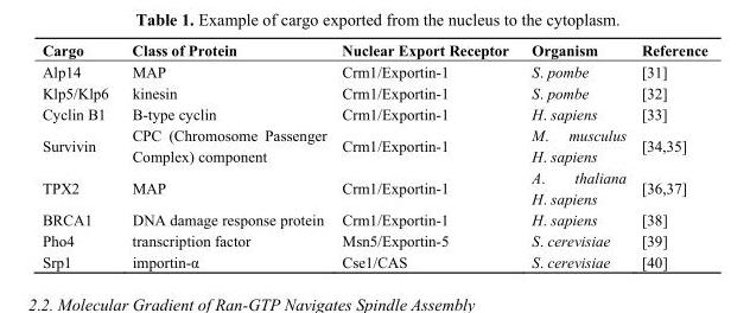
<table><thead><tr><td>Cargo</td><td>Class of Protein</td><td>Nuclear Export Receptor</td><td>Organism</td><td>Reference</td></tr></thead><tbody><tr><td>Alp14</td><td>MAP</td><td>Crm1/Exportin-1</td><td>S. pombe</td><td>[31]</td></tr><tr><td>Klp5/Klp6</td><td>kinesin</td><td>Crm1/Exportin-1</td><td>S. pombe</td><td>[32]</td></tr><tr><td>Cyclin B1</td><td>B-type cyclin</td><td>Crm1/Exportin-1</td><td>H. sapiens</td><td>[33]</td></tr><tr><td>Survivin</td><td>CPC (Chromosome Passenger Complex) component</td><td>Crm1/Exportin-1</td><td>M. musculus H. sapiens</td><td>[34,35]</td></tr><tr><td>TPX2</td><td>MAP</td><td>Crm1/Exportin-1</td><td>A. thaliana H. sapiens</td><td>[36,37]</td></tr><tr><td>BRCA1</td><td>DNA damage response protein</td><td>Crm1/Exportin-1</td><td>H. sapiens</td><td>[38]</td></tr><tr><td>Pho4</td><td>transcription factor</td><td>Msn5/Exportin-5</td><td>S. cerevisiae</td><td>[39]</td></tr><tr><td>Srp1</td><td>importin-α</td><td>Cse1/CAS</td><td>S. cerevisiae</td><td>[40]</td></tr></tbody></table>